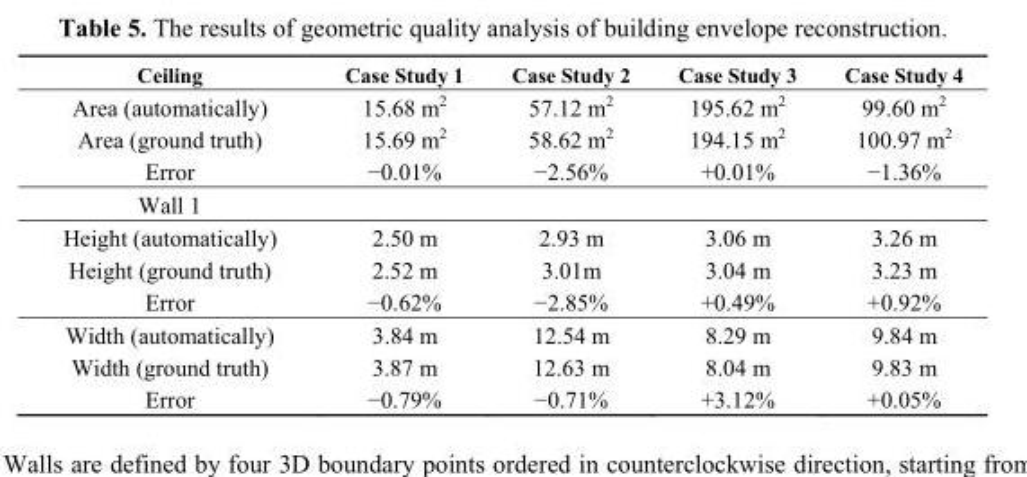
<table><thead><tr><td>Ceiling</td><td>Case Study 1</td><td>Case Study 2</td><td>Case Study 3</td><td>Case Study 4</td></tr></thead><tbody><tr><td>Area (automatically)</td><td>15.68 m<sup>2</sup></td><td>57.12 m<sup>2</sup></td><td>195.62 m<sup>2</sup></td><td>99.60 m<sup>2</sup></td></tr><tr><td>Area (ground truth)</td><td>15.69 m<sup>2</sup></td><td>58.62 m<sup>2</sup></td><td>194.15 m<sup>2</sup></td><td>100.97 m<sup>2</sup></td></tr><tr><td>Error</td><td>−0.01%</td><td>−2.56%</td><td>+0.01%</td><td>−1.36%</td></tr><tr><td colspan="5">Wall 1</td></tr><tr><td>Height (automatically)</td><td>2.50 m</td><td>2.93 m</td><td>3.06 m</td><td>3.26 m</td></tr><tr><td>Height (ground truth)</td><td>2.52 m</td><td>3.01m</td><td>3.04 m</td><td>3.23 m</td></tr><tr><td>Error</td><td>−0.62%</td><td>−2.85%</td><td>+0.49%</td><td>+0.92%</td></tr><tr><td>Width (automatically)</td><td>3.84 m</td><td>12.54 m</td><td>8.29 m</td><td>9.84 m</td></tr><tr><td>Width (ground truth)</td><td>3.87 m</td><td>12.63 m</td><td>8.04 m</td><td>9.83 m</td></tr><tr><td>Error</td><td>−0.79%</td><td>−0.71%</td><td>+3.12%</td><td>+0.05%</td></tr></tbody></table>